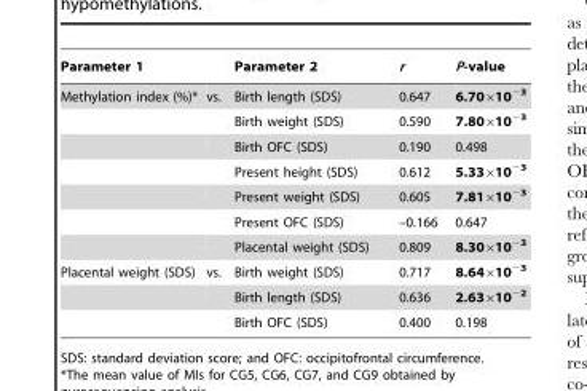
<table><thead><tr><td>Parameter 1</td><td></td><td>Parameter 2</td><td>r</td><td>P-value</td></tr></thead><tbody><tr><td rowspan="7">Methylation index (%)*</td><td>vs.</td><td>Birth length (SDS)</td><td>0.647</td><td>6.70×10<sup>−3</sup></td></tr><tr><td></td><td>Birth weight (SDS)</td><td>0.590</td><td>7.80×10<sup>−3</sup></td></tr><tr><td></td><td>Birth OFC (SDS)</td><td>0.190</td><td>0.498</td></tr><tr><td></td><td>Present height (SDS)</td><td>0.612</td><td>5.33×10<sup>−3</sup></td></tr><tr><td></td><td>Present weight (SDS)</td><td>0.605</td><td>7.81×10<sup>−3</sup></td></tr><tr><td></td><td>Present OFC (SDS)</td><td>–0.166</td><td>0.647</td></tr><tr><td></td><td>Placental weight (SDS)</td><td>0.809</td><td>8.30×10<sup>−3</sup></td></tr><tr><td rowspan="3">Placental weight (SDS)</td><td>vs.</td><td>Birth weight (SDS)</td><td>0.717</td><td>8.64×10<sup>−3</sup></td></tr><tr><td></td><td>Birth length (SDS)</td><td>0.636</td><td>2.63×10<sup>−2</sup></td></tr><tr><td></td><td>Birth OFC (SDS)</td><td>0.400</td><td>0.198</td></tr></tbody></table>